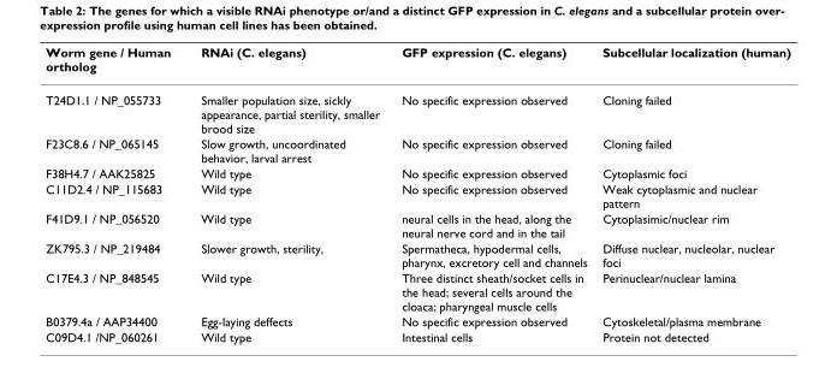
<table><thead><tr><td>Worm gene / Human ortholog</td><td>RNAi (C. elegans)</td><td>GFP expression (C. elegans)</td><td>Subcellular localization (human)</td></tr></thead><tbody><tr><td>T24D1.1 / NP_055733</td><td>Smaller population size, sickly appearance, partial sterility, smaller brood size</td><td>No specific expression observed</td><td>Cloning failed</td></tr><tr><td>F23C8.6 / NP_065145</td><td>Slow growth, uncoordinated behavior, larval arrest</td><td>No specific expression observed</td><td>Cloning failed</td></tr><tr><td>F38H4.7 / AAK25825</td><td>Wild type</td><td>No specific expression observed</td><td>Cytoplasmic foci</td></tr><tr><td>C11D2.4 / NP_115683</td><td>Wild type</td><td>No specific expression observed</td><td>Weak cytoplasmic and nuclear pattern</td></tr><tr><td>F41D9.1 / NP_056520</td><td>Wild type</td><td>neural cells in the head, along the neural nerve cord and in the tail</td><td>Cytoplasimic/nuclear rim</td></tr><tr><td>ZK795.3 / NP_219484</td><td>Slower growth, sterility,</td><td>Spermatheca, hypodermal cells, pharynx, excretory cell and channels</td><td>Diffuse nuclear, nucleolar, nuclear foci</td></tr><tr><td>C17E4.3 / NP_848545</td><td>Wild type</td><td>Three distinct sheath/socket cells in the head; several cells around the cloaca; pharyngeal muscle cells</td><td>Perinuclear/nuclear lamina</td></tr><tr><td>B0379.4a / AAP34400</td><td>Egg-laying deffects</td><td>No specific expression observed</td><td>Cytoskeletal/plasma membrane</td></tr><tr><td>C09D4.1 /NP_060261</td><td>Wild type</td><td>Intestinal cells</td><td>Protein not detected</td></tr></tbody></table>